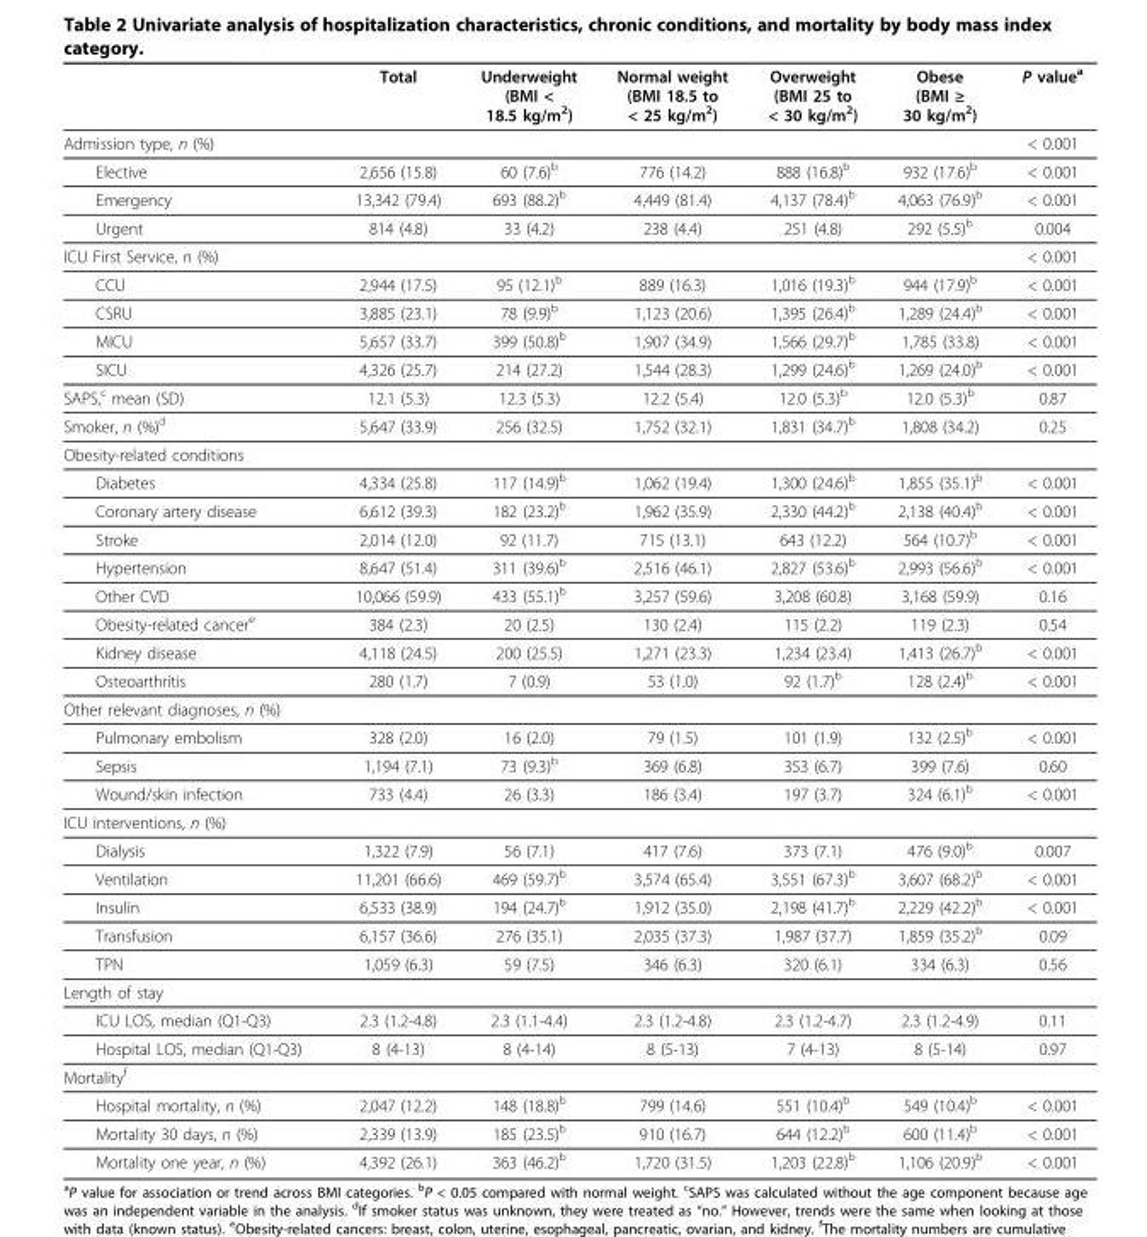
<table><thead><tr><td></td><td>Total</td><td>Underweight (BMI &lt; 18.5 kg/m<sup>2</sup>)</td><td>Normal weight (BMI 18.5 to &lt; 25 kg/m<sup>2</sup>)</td><td>Overweight (BMI 25 to &lt; 30 kg/m<sup>2</sup>)</td><td>Obese (BMI ≥ 30 kg/m<sup>2</sup>)</td><td>P value<sup>a</sup></td></tr></thead><tbody><tr><td>Admission type, n (%)</td><td></td><td></td><td></td><td></td><td></td><td>&lt; 0.001</td></tr><tr><td>Elective</td><td>2,656 (15.8)</td><td>60 (7.6)<sup>b</sup></td><td>776 (14.2)</td><td>888 (16.8)<sup>b</sup></td><td>932 (17.6)<sup>b</sup></td><td>&lt; 0.001</td></tr><tr><td>Emergency</td><td>13,342 (79.4)</td><td>693 (88.2)<sup>b</sup></td><td>4,449 (81.4)</td><td>4,137 (78.4)<sup>b</sup></td><td>4,063 (76.9)<sup>b</sup></td><td>&lt; 0.001</td></tr><tr><td>Urgent</td><td>814 (4.8)</td><td>33 (4.2)</td><td>238 (4.4)</td><td>251 (4.8)</td><td>292 (5.5)<sup>b</sup></td><td>0.004</td></tr><tr><td>ICU First Service, n (%)</td><td></td><td></td><td></td><td></td><td></td><td>&lt; 0.001</td></tr><tr><td>CCU</td><td>2,944 (17.5)</td><td>95 (12.1)<sup>b</sup></td><td>889 (16.3)</td><td>1,016 (19.3)<sup>b</sup></td><td>944 (17.9)<sup>b</sup></td><td>&lt; 0.001</td></tr><tr><td>CSRU</td><td>3,885 (23.1)</td><td>78 (9.9)<sup>b</sup></td><td>1,123 (20.6)</td><td>1,395 (26.4)<sup>b</sup></td><td>1,289 (24.4)<sup>b</sup></td><td>&lt; 0.001</td></tr><tr><td>MICU</td><td>5,657 (33.7)</td><td>399 (50.8)<sup>b</sup></td><td>1,907 (34.9)</td><td>1,566 (29.7)<sup>b</sup></td><td>1,785 (33.8)</td><td>&lt; 0.001</td></tr><tr><td>SICU</td><td>4,326 (25.7)</td><td>214 (27.2)</td><td>1,544 (28.3)</td><td>1,299 (24.6)<sup>b</sup></td><td>1,269 (24.0)<sup>b</sup></td><td>&lt; 0.001</td></tr><tr><td>SAPS,<sup>c</sup> mean (SD)</td><td>12.1 (5.3)</td><td>12.3 (5.3)</td><td>12.2 (5.4)</td><td>12.0 (5.3)<sup>b</sup></td><td>12.0 (5.3)<sup>b</sup></td><td>0.87</td></tr><tr><td>Smoker, n (%)<sup>d</sup></td><td>5,647 (33.9)</td><td>256 (32.5)</td><td>1,752 (32.1)</td><td>1,831 (34.7)<sup>b</sup></td><td>1,808 (34.2)</td><td>0.25</td></tr><tr><td colspan="7">Obesity-related conditions</td></tr><tr><td>Diabetes</td><td>4,334 (25.8)</td><td>117 (14.9)<sup>b</sup></td><td>1,062 (19.4)</td><td>1,300 (24.6)<sup>b</sup></td><td>1,855 (35.1)<sup>b</sup></td><td>&lt; 0.001</td></tr><tr><td>Coronary artery disease</td><td>6,612 (39.3)</td><td>182 (23.2)<sup>b</sup></td><td>1,962 (35.9)</td><td>2,330 (44.2)<sup>b</sup></td><td>2,138 (40.4)<sup>b</sup></td><td>&lt; 0.001</td></tr><tr><td>Stroke</td><td>2,014 (12.0)</td><td>92 (11.7)</td><td>715 (13.1)</td><td>643 (12.2)</td><td>564 (10.7)<sup>b</sup></td><td>&lt; 0.001</td></tr><tr><td>Hypertension</td><td>8,647 (51.4)</td><td>311 (39.6)<sup>b</sup></td><td>2,516 (46.1)</td><td>2,827 (53.6)<sup>b</sup></td><td>2,993 (56.6)<sup>b</sup></td><td>&lt; 0.001</td></tr><tr><td>Other CVD</td><td>10,066 (59.9)</td><td>433 (55.1)<sup>b</sup></td><td>3,257 (59.6)</td><td>3,208 (60.8)</td><td>3,168 (59.9)</td><td>0.16</td></tr><tr><td>Obesity-related cancer<sup>e</sup></td><td>384 (2.3)</td><td>20 (2.5)</td><td>130 (2.4)</td><td>115 (2.2)</td><td>119 (2.3)</td><td>0.54</td></tr><tr><td>Kidney disease</td><td>4,118 (24.5)</td><td>200 (25.5)</td><td>1,271 (23.3)</td><td>1,234 (23.4)</td><td>1,413 (26.7)<sup>b</sup></td><td>&lt; 0.001</td></tr><tr><td>Osteoarthritis</td><td>280 (1.7)</td><td>7 (0.9)</td><td>53 (1.0)</td><td>92 (1.7)<sup>b</sup></td><td>128 (2.4)<sup>b</sup></td><td>&lt; 0.001</td></tr><tr><td colspan="7">Other relevant diagnoses, n (%)</td></tr><tr><td>Pulmonary embolism</td><td>328 (2.0)</td><td>16 (2.0)</td><td>79 (1.5)</td><td>101 (1.9)</td><td>132 (2.5)<sup>b</sup></td><td>&lt; 0.001</td></tr><tr><td>Sepsis</td><td>1,194 (7.1)</td><td>73 (9.3)<sup>b</sup></td><td>369 (6.8)</td><td>353 (6.7)</td><td>399 (7.6)</td><td>0.60</td></tr><tr><td>Wound/skin infection</td><td>733 (4.4)</td><td>26 (3.3)</td><td>186 (3.4)</td><td>197 (3.7)</td><td>324 (6.1)<sup>b</sup></td><td>&lt; 0.001</td></tr><tr><td colspan="7">ICU interventions, n (%)</td></tr><tr><td>Dialysis</td><td>1,322 (7.9)</td><td>56 (7.1)</td><td>417 (7.6)</td><td>373 (7.1)</td><td>476 (9.0)<sup>b</sup></td><td>0.007</td></tr><tr><td>Ventilation</td><td>11,201 (66.6)</td><td>469 (59.7)<sup>b</sup></td><td>3,574 (65.4)</td><td>3,551 (67.3)<sup>b</sup></td><td>3,607 (68.2)<sup>b</sup></td><td>&lt; 0.001</td></tr><tr><td>Insulin</td><td>6,533 (38.9)</td><td>194 (24.7)<sup>b</sup></td><td>1,912 (35.0)</td><td>2,198 (41.7)<sup>b</sup></td><td>2,229 (42.2)<sup>b</sup></td><td>&lt; 0.001</td></tr><tr><td>Transfusion</td><td>6,157 (36.6)</td><td>276 (35.1)</td><td>2,035 (37.3)</td><td>1,987 (37.7)</td><td>1,859 (35.2)<sup>b</sup></td><td>0.09</td></tr><tr><td>TPN</td><td>1,059 (6.3)</td><td>59 (7.5)</td><td>346 (6.3)</td><td>320 (6.1)</td><td>334 (6.3)</td><td>0.56</td></tr><tr><td colspan="7">Length of stay</td></tr><tr><td>ICU LOS, median (Q1-Q3)</td><td>2.3 (1.2-4.8)</td><td>2.3 (1.1-4.4)</td><td>2.3 (1.2-4.8)</td><td>2.3 (1.2-4.7)</td><td>2.3 (1.2-4.9)</td><td>0.11</td></tr><tr><td>Hospital LOS, median (Q1-Q3)</td><td>8 (4-13)</td><td>8 (4-14)</td><td>8 (5-13)</td><td>7 (4-13)</td><td>8 (5-14)</td><td>0.97</td></tr><tr><td colspan="7">Mortality<sup>f</sup></td></tr><tr><td>Hospital mortality, n (%)</td><td>2,047 (12.2)</td><td>148 (18.8)<sup>b</sup></td><td>799 (14.6)</td><td>551 (10.4)<sup>b</sup></td><td>549 (10.4)<sup>b</sup></td><td>&lt; 0.001</td></tr><tr><td>Mortality 30 days, n (%)</td><td>2,339 (13.9)</td><td>185 (23.5)<sup>b</sup></td><td>910 (16.7)</td><td>644 (12.2)<sup>b</sup></td><td>600 (11.4)<sup>b</sup></td><td>&lt; 0.001</td></tr><tr><td>Mortality one year, n (%)</td><td>4,392 (26.1)</td><td>363 (46.2)<sup>b</sup></td><td>1,720 (31.5)</td><td>1,203 (22.8)<sup>b</sup></td><td>1,106 (20.9)<sup>b</sup></td><td>&lt; 0.001</td></tr></tbody></table>